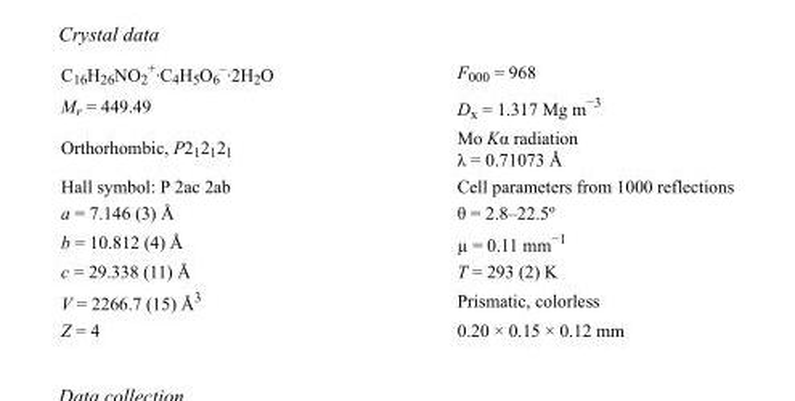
<table><tbody><tr><td>C<sub>16</sub>H<sub>26</sub>NO<sub>2</sub> <sup>+</sup>·C<sub>4</sub>H<sub>5</sub>O<sub>6</sub> <sup>–</sup>·2H<sub>2</sub>O</td><td>F<sub>000</sub> = 968</td></tr><tr><td>M<sub>r</sub> = 449.49</td><td>D<sub>x</sub> = 1.317 Mg m<sup>−3</sup></td></tr><tr><td>Orthorhombic, P2<sub>1</sub>2<sub>1</sub>2<sub>1</sub></td><td>Mo Kα radiation λ = 0.71073 Å</td></tr><tr><td>Hall symbol: P 2ac 2ab</td><td>Cell parameters from 1000 reflections</td></tr><tr><td>a = 7.146 (3) Å</td><td>θ = 2.8–22.5º</td></tr><tr><td>b = 10.812 (4) Å</td><td>µ = 0.11 mm<sup>−1</sup></td></tr><tr><td>c = 29.338 (11) Å</td><td>T = 293 (2) K</td></tr><tr><td>V = 2266.7 (15) Å<sup>3</sup></td><td>Prismatic, colorless</td></tr><tr><td>Z = 4</td><td>0.20 × 0.15 × 0.12 mm</td></tr></tbody></table>